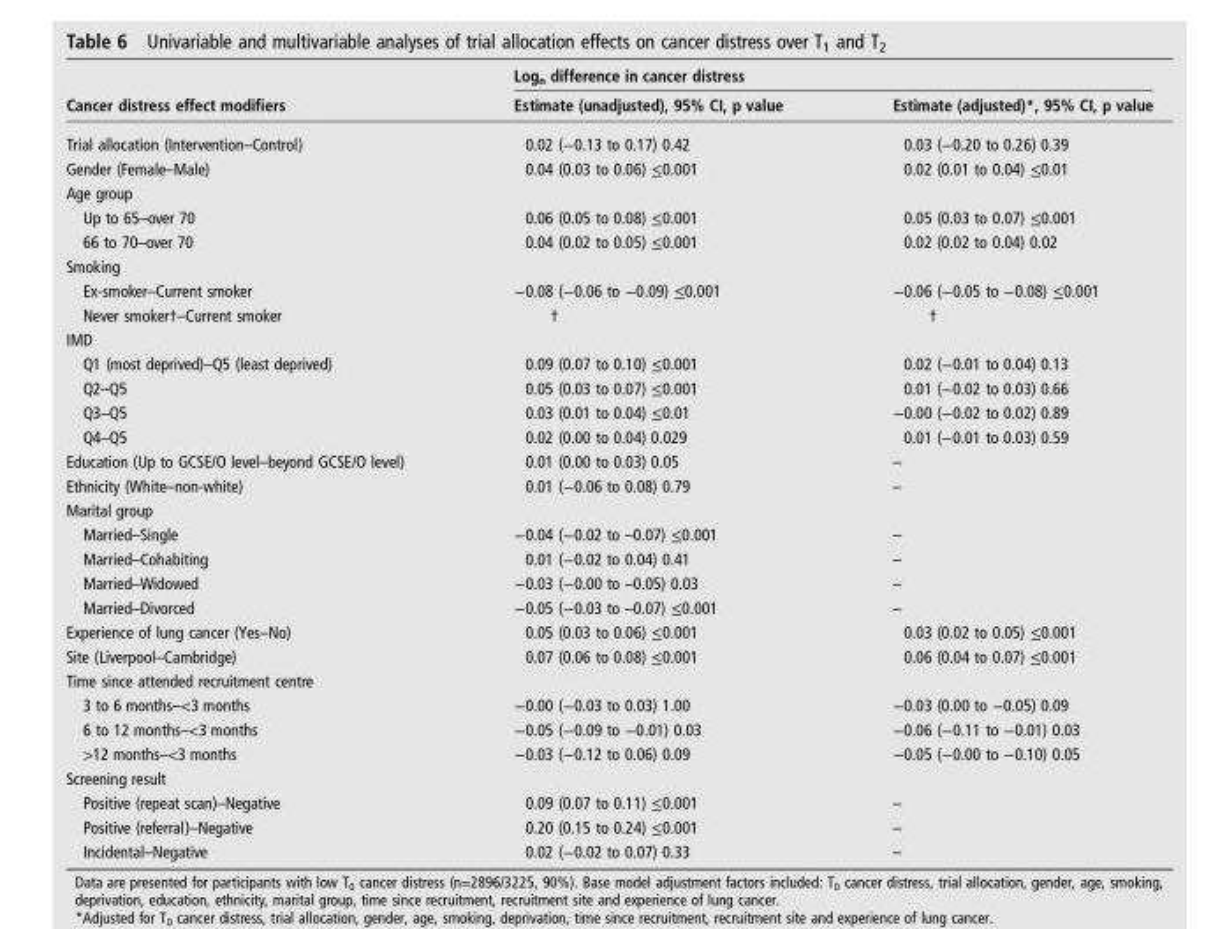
<table><thead><tr><td rowspan="2">Cancer distress effect modifiers</td><td colspan="2">Log<sub>n</sub> difference in cancer distress</td></tr><tr><td>Estimate (unadjusted), 95% CI, p value</td><td>Estimate (adjusted)*, 95% CI, p value</td></tr></thead><tbody><tr><td>Trial allocation (Intervention–Control)</td><td>0.02 (−0.13 to 0.17) 0.42</td><td>0.03 (−0.20 to 0.26) 0.39</td></tr><tr><td>Gender (Female–Male)</td><td>0.04 (0.03 to 0.06) ≤0.001</td><td>0.02 (0.01 to 0.04) ≤0.01</td></tr><tr><td colspan="3">Age group</td></tr><tr><td>Up to 65–over 70</td><td>0.06 (0.05 to 0.08) ≤0.001</td><td>0.05 (0.03 to 0.07) ≤0.001</td></tr><tr><td>66 to 70–over 70</td><td>0.04 (0.02 to 0.05) ≤0.001</td><td>0.02 (0.02 to 0.04) 0.02</td></tr><tr><td colspan="3">Smoking</td></tr><tr><td>Ex-smoker–Current smoker</td><td>−0.08 (−0.06 to −0.09) ≤0.001</td><td>−0.06 (−0.05 to −0.08) ≤0.001</td></tr><tr><td>Never smoker†–Current smoker</td><td>†</td><td>†</td></tr><tr><td colspan="3">IMD</td></tr><tr><td>Q1 (most deprived)–Q5 (least deprived)</td><td>0.09 (0.07 to 0.10) ≤0.001</td><td>0.02 (−0.01 to 0.04) 0.13</td></tr><tr><td>Q2–Q5</td><td>0.05 (0.03 to 0.07) ≤0.001</td><td>0.01 (−0.02 to 0.03) 0.66</td></tr><tr><td>Q3–Q5</td><td>0.03 (0.01 to 0.04) ≤0.01</td><td>−0.00 (−0.02 to 0.02) 0.89</td></tr><tr><td>Q4–Q5</td><td>0.02 (0.00 to 0.04) 0.029</td><td>0.01 (−0.01 to 0.03) 0.59</td></tr><tr><td>Education (Up to GCSE/O level–beyond GCSE/O level)</td><td>0.01 (0.00 to 0.03) 0.05</td><td>–</td></tr><tr><td>Ethnicity (White–non-white)</td><td>0.01 (−0.06 to 0.08) 0.79</td><td>–</td></tr><tr><td colspan="3">Marital group</td></tr><tr><td>Married–Single</td><td>−0.04 (−0.02 to –0.07) ≤0.001</td><td>–</td></tr><tr><td>Married–Cohabiting</td><td>0.01 (−0.02 to 0.04) 0.41</td><td>–</td></tr><tr><td>Married–Widowed</td><td>−0.03 (−0.00 to –0.05) 0.03</td><td>–</td></tr><tr><td>Married–Divorced</td><td>−0.05 (−0.03 to –0.07) ≤0.001</td><td>–</td></tr><tr><td>Experience of lung cancer (Yes–No)</td><td>0.05 (0.03 to 0.06) ≤0.001</td><td>0.03 (0.02 to 0.05) ≤0.001</td></tr><tr><td>Site (Liverpool–Cambridge)</td><td>0.07 (0.06 to 0.08) ≤0.001</td><td>0.06 (0.04 to 0.07) ≤0.001</td></tr><tr><td colspan="3">Time since attended recruitment centre</td></tr><tr><td>3 to 6 months–&lt;3 months</td><td>−0.00 (−0.03 to 0.03) 1.00</td><td>−0.03 (0.00 to −0.05) 0.09</td></tr><tr><td>6 to 12 months–&lt;3 months</td><td>−0.05 (−0.09 to −0.01) 0.03</td><td>−0.06 (−0.11 to −0.01) 0.03</td></tr><tr><td>&gt;12 months–&lt;3 months</td><td>−0.03 (−0.12 to 0.06) 0.09</td><td>−0.05 (−0.00 to −0.10) 0.05</td></tr><tr><td colspan="3">Screening result</td></tr><tr><td>Positive (repeat scan)–Negative</td><td>0.09 (0.07 to 0.11) ≤0.001</td><td>–</td></tr><tr><td>Positive (referral)–Negative</td><td>0.20 (0.15 to 0.24) ≤0.001</td><td>–</td></tr><tr><td>Incidental–Negative</td><td>0.02 (−0.02 to 0.07) 0.33</td><td>–</td></tr></tbody></table>